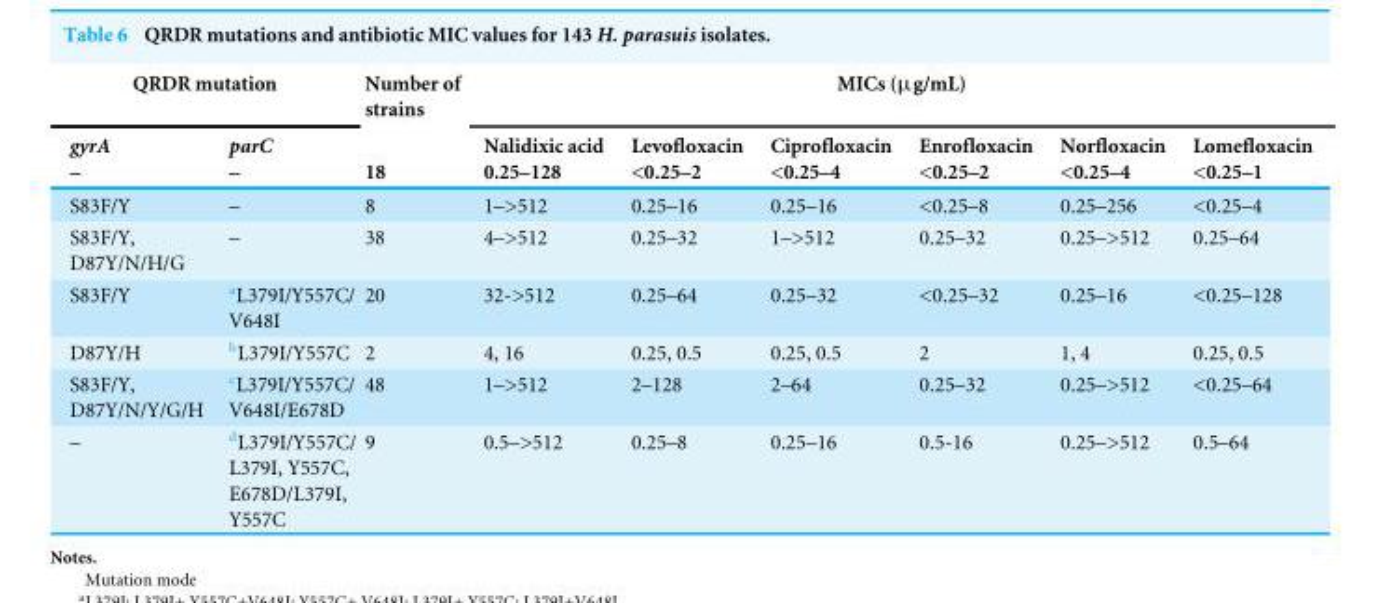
<table><thead><tr><td colspan="2">QRDR mutation</td><td rowspan="3">Number of strains 18</td><td colspan="6">MICs (µg/mL)</td></tr><tr><td rowspan="2">gyrA –</td><td rowspan="2">parC –</td><td rowspan="2">Nalidixic acid 0.25–128</td><td rowspan="2">Levofloxacin &lt;0.25–2</td><td rowspan="2">Ciprofloxacin &lt;0.25–4</td><td rowspan="2">Enrofloxacin &lt;0.25–2</td><td rowspan="2">Norfloxacin &lt;0.25–4</td><td rowspan="2">Lomefloxacin &lt;0.25–1</td></tr><tr></tr></thead><tbody><tr><td>S83F/Y</td><td>–</td><td>8</td><td>1–&gt;512</td><td>0.25–16</td><td>0.25–16</td><td>&lt;0.25–8</td><td>0.25–256</td><td>&lt;0.25–4</td></tr><tr><td>S83F/Y, D87Y/N/H/G</td><td>–</td><td>38</td><td>4–&gt;512</td><td>0.25–32</td><td>1–&gt;512</td><td>0.25–32</td><td>0.25–&gt;512</td><td>0.25–64</td></tr><tr><td>S83F/Y</td><td><sup>a</sup>L379I/Y557C/ V648I</td><td>20</td><td>32-&gt;512</td><td>0.25–64</td><td>0.25–32</td><td>&lt;0.25–32</td><td>0.25–16</td><td>&lt;0.25–128</td></tr><tr><td>D87Y/H</td><td><sup>b</sup>L379I/Y557C</td><td>2</td><td>4, 16</td><td>0.25, 0.5</td><td>0.25, 0.5</td><td>2</td><td>1, 4</td><td>0.25, 0.5</td></tr><tr><td>S83F/Y, D87Y/N/Y/G/H</td><td><sup>c</sup>L379I/Y557C/ V648I/E678D</td><td>48</td><td>1–&gt;512</td><td>2–128</td><td>2–64</td><td>0.25–32</td><td>0.25–&gt;512</td><td>&lt;0.25–64</td></tr><tr><td>–</td><td><sup>d</sup>L379I/Y557C/ L379I, Y557C, E678D/L379I, Y557C</td><td>9</td><td>0.5–&gt;512</td><td>0.25–8</td><td>0.25–16</td><td>0.5-16</td><td>0.25–&gt;512</td><td>0.5–64</td></tr></tbody></table>